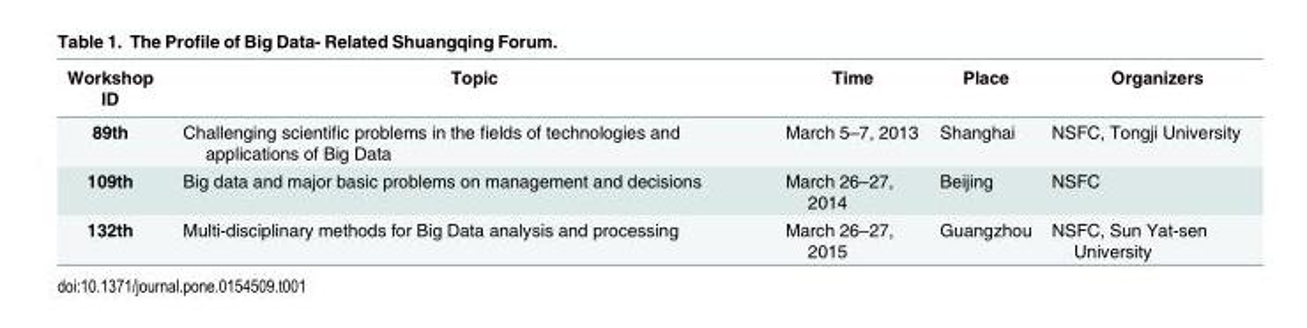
<table><thead><tr><td>Workshop ID</td><td>Topic</td><td>Time</td><td>Place</td><td>Organizers</td></tr></thead><tbody><tr><td>89th</td><td>Challenging scientific problems in the fields of technologies and applications of Big Data</td><td>March 5–7, 2013</td><td>Shanghai</td><td>NSFC, Tongji University</td></tr><tr><td>109th</td><td>Big data and major basic problems on management and decisions</td><td>March 26–27, 2014</td><td>Beijing</td><td>NSFC</td></tr><tr><td>132th</td><td>Multi-disciplinary methods for Big Data analysis and processing</td><td>March 26–27, 2015</td><td>Guangzhou</td><td>NSFC, Sun Yat-sen University</td></tr></tbody></table>